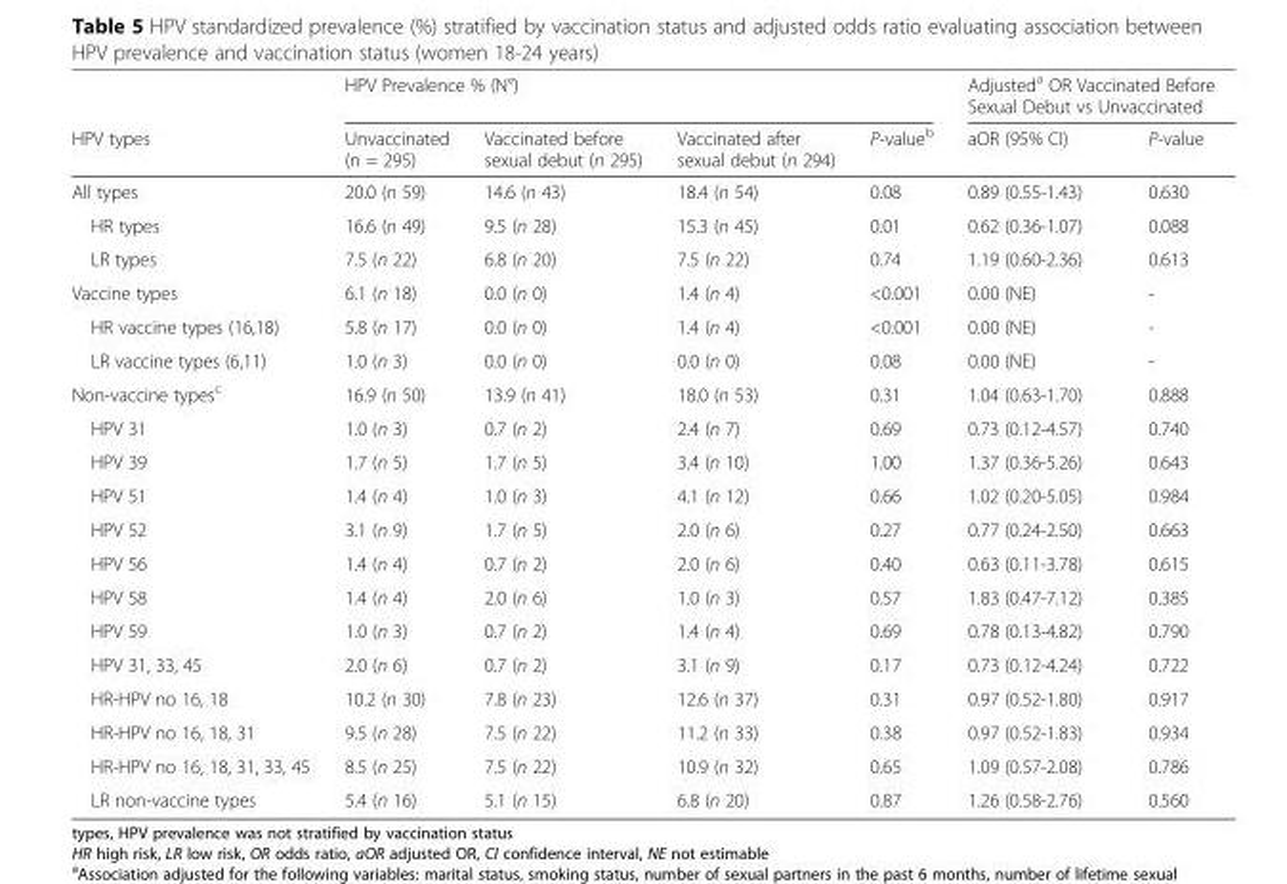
<table><thead><tr><td rowspan="2">HPV types</td><td colspan="4">HPV Prevalence % (N°)</td><td colspan="2">Adjusted<sup>a</sup> OR Vaccinated Before Sexual Debut vs Unvaccinated</td></tr><tr><td>Unvaccinated (n = 295)</td><td>Vaccinated before sexual debut (n 295)</td><td>Vaccinated after sexual debut (n 294)</td><td>P-value<sup>b</sup></td><td>aOR (95% CI)</td><td>P-value</td></tr></thead><tbody><tr><td>All types</td><td>20.0 (n 59)</td><td>14.6 (n 43)</td><td>18.4 (n 54)</td><td>0.08</td><td>0.89 (0.55-1.43)</td><td>0.630</td></tr><tr><td>HR types</td><td>16.6 (n 49)</td><td>9.5 (n 28)</td><td>15.3 (n 45)</td><td>0.01</td><td>0.62 (0.36-1.07)</td><td>0.088</td></tr><tr><td>LR types</td><td>7.5 (n 22)</td><td>6.8 (n 20)</td><td>7.5 (n 22)</td><td>0.74</td><td>1.19 (0.60-2.36)</td><td>0.613</td></tr><tr><td>Vaccine types</td><td>6.1 (n 18)</td><td>0.0 (n 0)</td><td>1.4 (n 4)</td><td>&lt;0.001</td><td>0.00 (NE)</td><td>-</td></tr><tr><td>HR vaccine types (16,18)</td><td>5.8 (n 17)</td><td>0.0 (n 0)</td><td>1.4 (n 4)</td><td>&lt;0.001</td><td>0.00 (NE)</td><td>-</td></tr><tr><td>LR vaccine types (6,11)</td><td>1.0 (n 3)</td><td>0.0 (n 0)</td><td>0.0 (n 0)</td><td>0.08</td><td>0.00 (NE)</td><td>-</td></tr><tr><td>Non-vaccine types<sup>c</sup></td><td>16.9 (n 50)</td><td>13.9 (n 41)</td><td>18.0 (n 53)</td><td>0.31</td><td>1.04 (0.63-1.70)</td><td>0.888</td></tr><tr><td>HPV 31</td><td>1.0 (n 3)</td><td>0.7 (n 2)</td><td>2.4 (n 7)</td><td>0.69</td><td>0.73 (0.12-4.57)</td><td>0.740</td></tr><tr><td>HPV 39</td><td>1.7 (n 5)</td><td>1.7 (n 5)</td><td>3.4 (n 10)</td><td>1.00</td><td>1.37 (0.36-5.26)</td><td>0.643</td></tr><tr><td>HPV 51</td><td>1.4 (n 4)</td><td>1.0 (n 3)</td><td>4.1 (n 12)</td><td>0.66</td><td>1.02 (0.20-5.05)</td><td>0.984</td></tr><tr><td>HPV 52</td><td>3.1 (n 9)</td><td>1.7 (n 5)</td><td>2.0 (n 6)</td><td>0.27</td><td>0.77 (0.24-2.50)</td><td>0.663</td></tr><tr><td>HPV 56</td><td>1.4 (n 4)</td><td>0.7 (n 2)</td><td>2.0 (n 6)</td><td>0.40</td><td>0.63 (0.11-3.78)</td><td>0.615</td></tr><tr><td>HPV 58</td><td>1.4 (n 4)</td><td>2.0 (n 6)</td><td>1.0 (n 3)</td><td>0.57</td><td>1.83 (0.47-7.12)</td><td>0.385</td></tr><tr><td>HPV 59</td><td>1.0 (n 3)</td><td>0.7 (n 2)</td><td>1.4 (n 4)</td><td>0.69</td><td>0.78 (0.13-4.82)</td><td>0.790</td></tr><tr><td>HPV 31, 33, 45</td><td>2.0 (n 6)</td><td>0.7 (n 2)</td><td>3.1 (n 9)</td><td>0.17</td><td>0.73 (0.12-4.24)</td><td>0.722</td></tr><tr><td>HR-HPV no 16, 18</td><td>10.2 (n 30)</td><td>7.8 (n 23)</td><td>12.6 (n 37)</td><td>0.31</td><td>0.97 (0.52-1.80)</td><td>0.917</td></tr><tr><td>HR-HPV no 16, 18, 31</td><td>9.5 (n 28)</td><td>7.5 (n 22)</td><td>11.2 (n 33)</td><td>0.38</td><td>0.97 (0.52-1.83)</td><td>0.934</td></tr><tr><td>HR-HPV no 16, 18, 31, 33, 45</td><td>8.5 (n 25)</td><td>7.5 (n 22)</td><td>10.9 (n 32)</td><td>0.65</td><td>1.09 (0.57-2.08)</td><td>0.786</td></tr><tr><td>LR non-vaccine types</td><td>5.4 (n 16)</td><td>5.1 (n 15)</td><td>6.8 (n 20)</td><td>0.87</td><td>1.26 (0.58-2.76)</td><td>0.560</td></tr></tbody></table>